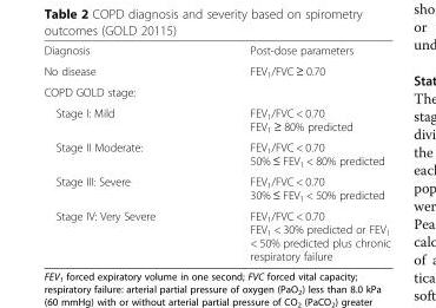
<table><tbody><tr><td>Diagnosis</td><td>Post-dose parameters</td></tr><tr><td>No disease</td><td>FEV<sub>1</sub>/FVC ≥ 0.70</td></tr><tr><td colspan="2">COPD GOLD stage:</td></tr><tr><td>Stage I: Mild</td><td>FEV<sub>1</sub>/FVC &lt; 0.70 FEV<sub>1</sub> ≥ 80% predicted</td></tr><tr><td>Stage II Moderate:</td><td>FEV<sub>1</sub>/FVC &lt; 0.70 50% ≤ FEV<sub>1</sub> &lt; 80% predicted</td></tr><tr><td>Stage III: Severe</td><td>FEV<sub>1</sub>/FVC &lt; 0.70 30% ≤ FEV<sub>1</sub> &lt; 50% predicted</td></tr><tr><td>Stage IV: Very Severe</td><td>FEV<sub>1</sub>/FVC &lt; 0.70 FEV<sub>1</sub> &lt; 30% predicted or FEV<sub>1</sub> &lt; 50% predicted plus chronic respiratory failure</td></tr></tbody></table>